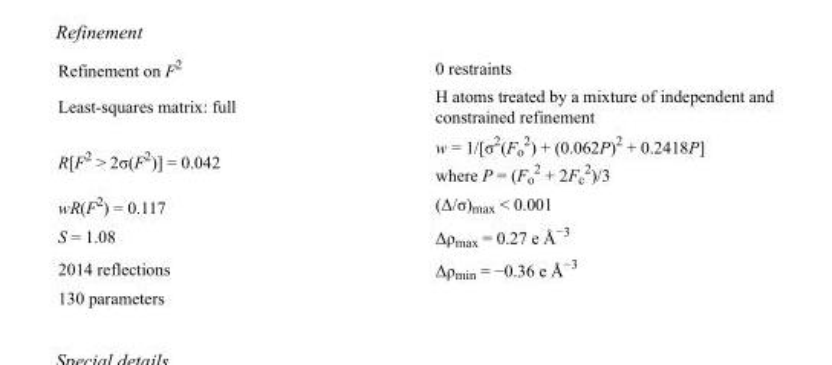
<table><tbody><tr><td>Refinement on F<sup>2</sup></td><td>0 restraints</td></tr><tr><td>Least-squares matrix: full</td><td>H atoms treated by a mixture of independent and constrained refinement</td></tr><tr><td>R[F<sup>2</sup> &gt; 2σ(F<sup>2</sup>)] = 0.042</td><td>w = 1/[σ<sup>2</sup>(F<sub>o</sub> <sup>2</sup>) + (0.062P)<sup>2</sup> + 0.2418P] where P = (F<sub>o</sub> <sup>2</sup> + 2F<sub>c</sub> <sup>2</sup>)/3</td></tr><tr><td>wR(F<sup>2</sup>) = 0.117</td><td>(Δ/σ)<sub>max</sub> &lt; 0.001</td></tr><tr><td>S = 1.08</td><td>Δρ<sub>max</sub> = 0.27 e Å<sup>−3</sup></td></tr><tr><td>2014 reflections</td><td>Δρ<sub>min</sub> = −0.36 e Å<sup>−3</sup></td></tr><tr><td>130 parameters</td><td></td></tr></tbody></table>